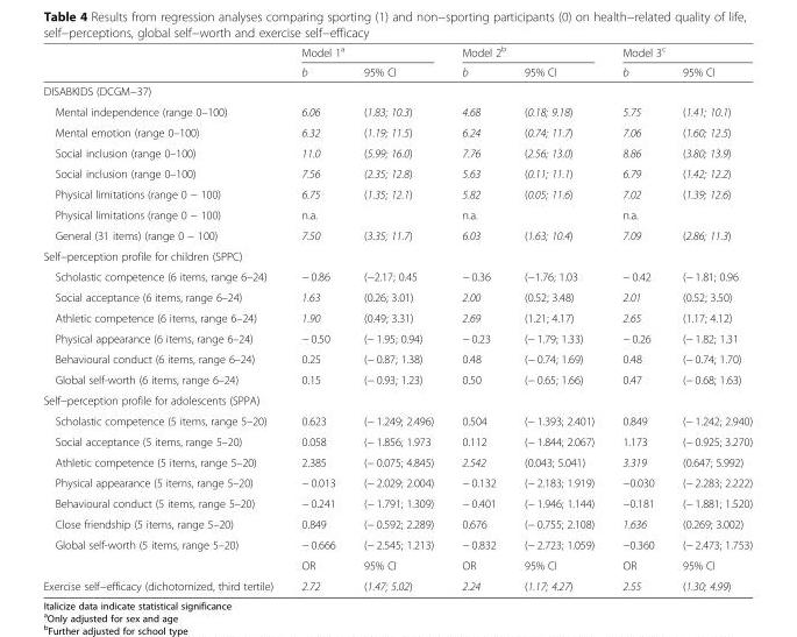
<table><thead><tr><td rowspan="2"></td><td colspan="2">Model 1<sup>a</sup></td><td colspan="2">Model 2<sup>b</sup></td><td colspan="2">Model 3<sup>c</sup></td></tr><tr><td>b</td><td>95% CI</td><td>b</td><td>95% CI</td><td>b</td><td>95% CI</td></tr></thead><tbody><tr><td colspan="7">DISABKIDS (DCGM−37)</td></tr><tr><td>Mental independence (range 0–100)</td><td>6.06</td><td>(1.83; 10.3)</td><td>4.68</td><td>(0.18; 9.18)</td><td>5.75</td><td>(1.41; 10.1)</td></tr><tr><td>Mental emotion (range 0–100)</td><td>6.32</td><td>(1.19; 11.5)</td><td>6.24</td><td>(0.74; 11.7)</td><td>7.06</td><td>(1.60; 12.5)</td></tr><tr><td>Social inclusion (range 0–100)</td><td>11.0</td><td>(5.99; 16.0)</td><td>7.76</td><td>(2.56; 13.0)</td><td>8.86</td><td>(3.80; 13.9)</td></tr><tr><td>Social inclusion (range 0–100)</td><td>7.56</td><td>(2.35; 12.8)</td><td>5.63</td><td>(0.11; 11.1)</td><td>6.79</td><td>(1.42; 12.2)</td></tr><tr><td>Physical limitations (range 0 − 100)</td><td>6.75</td><td>(1.35; 12.1)</td><td>5.82</td><td>(0.05; 11.6)</td><td>7.02</td><td>(1.39; 12.6)</td></tr><tr><td>Physical limitations (range 0 − 100)</td><td>n.a.</td><td></td><td>n.a.</td><td></td><td>n.a.</td><td></td></tr><tr><td>General (31 items) (range 0 − 100)</td><td>7.50</td><td>(3.35; 11.7)</td><td>6.03</td><td>(1.63; 10.4)</td><td>7.09</td><td>(2.86; 11.3)</td></tr><tr><td colspan="7">Self−perception profile for children (SPPC)</td></tr><tr><td>Scholastic competence (6 items, range 6–24)</td><td>− 0.86</td><td>(−2.17; 0.45</td><td>− 0.36</td><td>(−1.76; 1.03</td><td>− 0.42</td><td>(− 1.81; 0.96</td></tr><tr><td>Social acceptance (6 items, range 6–24)</td><td>1.63</td><td>(0.26; 3.01)</td><td>2.00</td><td>(0.52; 3.48)</td><td>2.01</td><td>(0.52; 3.50)</td></tr><tr><td>Athletic competence (6 items, range 6–24)</td><td>1.90</td><td>(0.49; 3.31)</td><td>2.69</td><td>(1.21; 4.17)</td><td>2.65</td><td>(1.17; 4.12)</td></tr><tr><td>Physical appearance (6 items, range 6–24)</td><td>− 0.50</td><td>(− 1.95; 0.94)</td><td>− 0.23</td><td>(− 1.79; 1.33)</td><td>− 0.26</td><td>(− 1.82; 1.31</td></tr><tr><td>Behavioural conduct (6 items, range 6–24)</td><td>0.25</td><td>(− 0.87; 1.38)</td><td>0.48</td><td>(− 0.74; 1.69)</td><td>0.48</td><td>(− 0.74; 1.70)</td></tr><tr><td>Global self-worth (6 items, range 6–24)</td><td>0.15</td><td>(− 0.93; 1.23)</td><td>0.50</td><td>(− 0.65; 1.66)</td><td>0.47</td><td>(− 0.68; 1.63)</td></tr><tr><td colspan="7">Self−perception profile for adolescents (SPPA)</td></tr><tr><td>Scholastic competence (5 items, range 5–20)</td><td>0.623</td><td>(− 1.249; 2.496)</td><td>0.504</td><td>(− 1.393; 2.401)</td><td>0.849</td><td>(− 1.242; 2.940)</td></tr><tr><td>Social acceptance (5 items, range 5–20)</td><td>0.058</td><td>(− 1.856; 1.973</td><td>0.112</td><td>(− 1.844; 2.067)</td><td>1.173</td><td>(− 0.925; 3.270)</td></tr><tr><td>Athletic competence (5 items, range 5–20)</td><td>2.385</td><td>(− 0.075; 4.845)</td><td>2.542</td><td>(0.043; 5.041)</td><td>3.319</td><td>(0.647; 5.992)</td></tr><tr><td>Physical appearance (5 items, range 5–20)</td><td>− 0.013</td><td>(− 2.029; 2.004)</td><td>− 0.132</td><td>(− 2.183; 1.919)</td><td>−0.030</td><td>(− 2.283; 2.222)</td></tr><tr><td>Behavioural conduct (5 items, range 5–20)</td><td>− 0.241</td><td>(− 1.791; 1.309)</td><td>− 0.401</td><td>(− 1.946; 1.144)</td><td>−0.181</td><td>(− 1.881; 1.520)</td></tr><tr><td>Close friendship (5 items, range 5–20)</td><td>0.849</td><td>(− 0.592; 2.289)</td><td>0.676</td><td>(− 0.755; 2.108)</td><td>1.636</td><td>(0.269; 3.002)</td></tr><tr><td rowspan="2">Global self-worth (5 items, range 5–20)</td><td>− 0.666</td><td>(− 2.545; 1.213)</td><td>− 0.832</td><td>(− 2.723; 1.059)</td><td>−0.360</td><td>(− 2.473; 1.753)</td></tr><tr><td>OR</td><td>95% CI</td><td>OR</td><td>95% CI</td><td>OR</td><td>95% CI</td></tr><tr><td>Exercise self−efficacy (dichotomized, third tertile)</td><td>2.72</td><td>(1.47; 5.02)</td><td>2.24</td><td>(1.17; 4.27)</td><td>2.55</td><td>(1.30; 4.99)</td></tr></tbody></table>